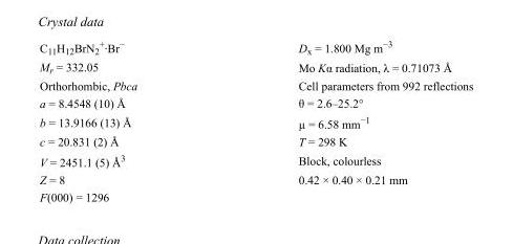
<table><tbody><tr><td>C<sub>11</sub>H<sub>12</sub>BrN<sub>2</sub> <sup>+</sup>·Br<sup>−</sup></td><td>D<sub>x</sub> = 1.800 Mg m<sup>−3</sup></td></tr><tr><td>M<sub>r</sub> = 332.05</td><td>Mo Kα radiation, λ = 0.71073 Å</td></tr><tr><td>Orthorhombic, Pbca</td><td>Cell parameters from 992 reflections</td></tr><tr><td>a = 8.4548 (10) Å</td><td>θ = 2.6–25.2°</td></tr><tr><td>b = 13.9166 (13) Å</td><td>µ = 6.58 mm<sup>−1</sup></td></tr><tr><td>c = 20.831 (2) Å</td><td>T = 298 K</td></tr><tr><td>V = 2451.1 (5) Å<sup>3</sup></td><td>Block, colourless</td></tr><tr><td>Z = 8</td><td>0.42 × 0.40 × 0.21 mm</td></tr><tr><td>F(000) = 1296</td><td></td></tr></tbody></table>